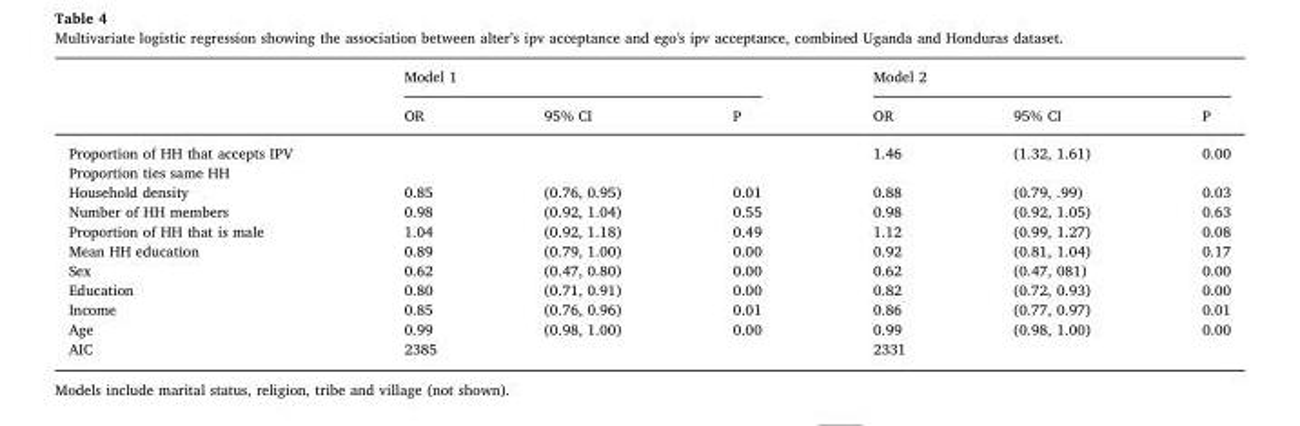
<table><thead><tr><td rowspan="2"></td><td colspan="3">Model 1</td><td colspan="3">Model 2</td></tr><tr><td>OR</td><td>95% CI</td><td>P</td><td>OR</td><td>95% CI</td><td>P</td></tr></thead><tbody><tr><td>Proportion of HH that accepts IPV</td><td></td><td></td><td></td><td>1.46</td><td>(1.32, 1.61)</td><td>0.00</td></tr><tr><td colspan="7">Proportion ties same HH</td></tr><tr><td>Household density</td><td>0.85</td><td>(0.76, 0.95)</td><td>0.01</td><td>0.88</td><td>(0.79, .99)</td><td>0.03</td></tr><tr><td>Number of HH members</td><td>0.98</td><td>(0.92, 1.04)</td><td>0.55</td><td>0.98</td><td>(0.92, 1.05)</td><td>0.63</td></tr><tr><td>Proportion of HH that is male</td><td>1.04</td><td>(0.92, 1.18)</td><td>0.49</td><td>1.12</td><td>(0.99, 1.27)</td><td>0.08</td></tr><tr><td>Mean HH education</td><td>0.89</td><td>(0.79, 1.00)</td><td>0.00</td><td>0.92</td><td>(0.81, 1.04)</td><td>0.17</td></tr><tr><td>Sex</td><td>0.62</td><td>(0.47, 0.80)</td><td>0.00</td><td>0.62</td><td>(0.47, 081)</td><td>0.00</td></tr><tr><td>Education</td><td>0.80</td><td>(0.71, 0.91)</td><td>0.00</td><td>0.82</td><td>(0.72, 0.93)</td><td>0.00</td></tr><tr><td>Income</td><td>0.85</td><td>(0.76, 0.96)</td><td>0.01</td><td>0.86</td><td>(0.77, 0.97)</td><td>0.01</td></tr><tr><td>Age</td><td>0.99</td><td>(0.98, 1.00)</td><td>0.00</td><td>0.99</td><td>(0.98, 1.00)</td><td>0.00</td></tr><tr><td>AIC</td><td colspan="3">2385</td><td colspan="3">2331</td></tr></tbody></table>